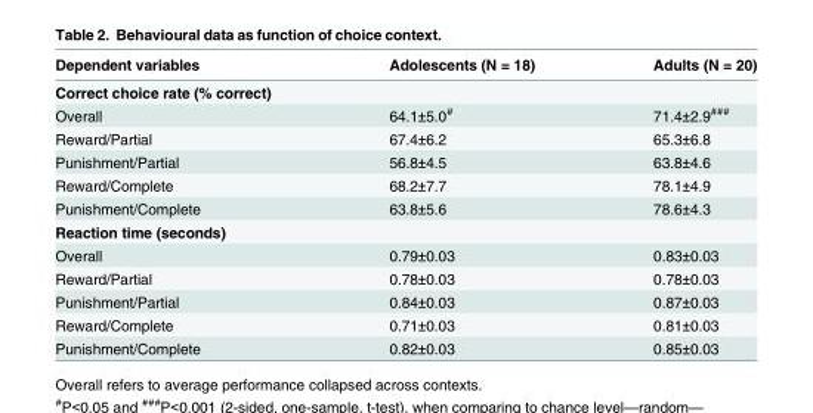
<table><thead><tr><td>Dependent variables</td><td>Adolescents (N = 18)</td><td>Adults (N = 20)</td></tr></thead><tbody><tr><td colspan="3">Correct choice rate (% correct)</td></tr><tr><td>Overall</td><td>64.1±5.0<sup>#</sup></td><td>71.4±2.9<sup>###</sup></td></tr><tr><td>Reward/Partial</td><td>67.4±6.2</td><td>65.3±6.8</td></tr><tr><td>Punishment/Partial</td><td>56.8±4.5</td><td>63.8±4.6</td></tr><tr><td>Reward/Complete</td><td>68.2±7.7</td><td>78.1±4.9</td></tr><tr><td>Punishment/Complete</td><td>63.8±5.6</td><td>78.6±4.3</td></tr><tr><td colspan="3">Reaction time (seconds)</td></tr><tr><td>Overall</td><td>0.79±0.03</td><td>0.83±0.03</td></tr><tr><td>Reward/Partial</td><td>0.78±0.03</td><td>0.78±0.03</td></tr><tr><td>Punishment/Partial</td><td>0.84±0.03</td><td>0.87±0.03</td></tr><tr><td>Reward/Complete</td><td>0.71±0.03</td><td>0.81±0.03</td></tr><tr><td>Punishment/Complete</td><td>0.82±0.03</td><td>0.85±0.03</td></tr></tbody></table>